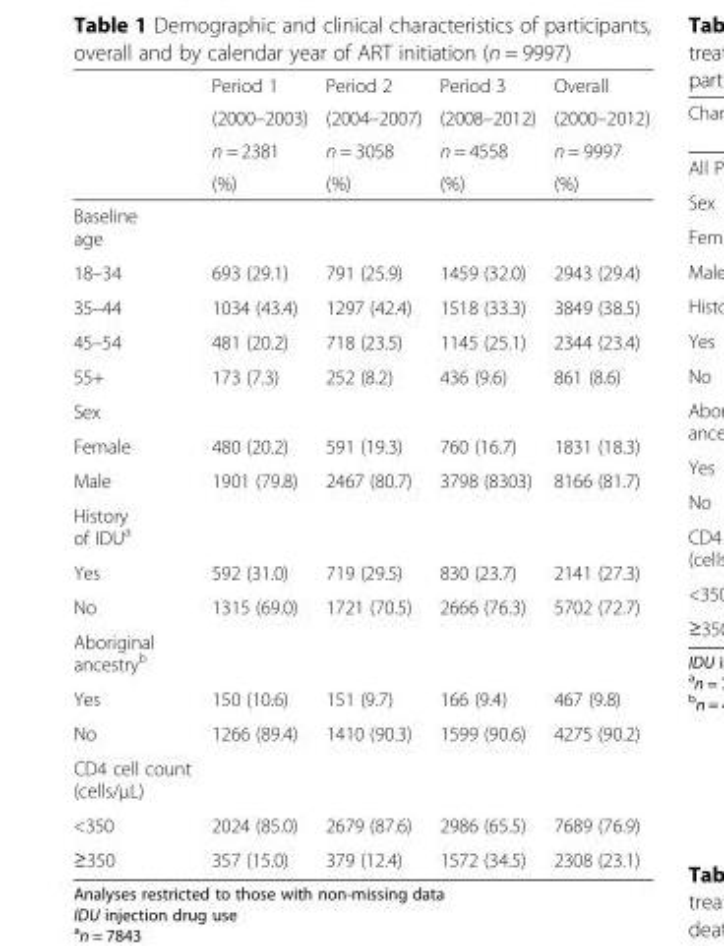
<table><thead><tr><td rowspan="4"></td><td rowspan="4">Period 1 (2000–2003) n = 2381 (%)</td><td rowspan="4">Period 2 (2004–2007) n = 3058 (%)</td><td rowspan="4">Period 3 (2008–2012) n = 4558 (%)</td><td rowspan="4">Overall (2000–2012) n = 9997 (%)</td></tr><tr></tr><tr></tr><tr></tr></thead><tbody><tr><td colspan="5">Baseline age</td></tr><tr><td>18–34</td><td>693 (29.1)</td><td>791 (25.9)</td><td>1459 (32.0)</td><td>2943 (29.4)</td></tr><tr><td>35–44</td><td>1034 (43.4)</td><td>1297 (42.4)</td><td>1518 (33.3)</td><td>3849 (38.5)</td></tr><tr><td>45–54</td><td>481 (20.2)</td><td>718 (23.5)</td><td>1145 (25.1)</td><td>2344 (23.4)</td></tr><tr><td>55+</td><td>173 (7.3)</td><td>252 (8.2)</td><td>436 (9.6)</td><td>861 (8.6)</td></tr><tr><td colspan="5">Sex</td></tr><tr><td>Female</td><td>480 (20.2)</td><td>591 (19.3)</td><td>760 (16.7)</td><td>1831 (18.3)</td></tr><tr><td>Male</td><td>1901 (79.8)</td><td>2467 (80.7)</td><td>3798 (8303)</td><td>8166 (81.7)</td></tr><tr><td colspan="5">History of IDU<sup>a</sup></td></tr><tr><td>Yes</td><td>592 (31.0)</td><td>719 (29.5)</td><td>830 (23.7)</td><td>2141 (27.3)</td></tr><tr><td>No</td><td>1315 (69.0)</td><td>1721 (70.5)</td><td>2666 (76.3)</td><td>5702 (72.7)</td></tr><tr><td colspan="5">Aboriginal ancestry<sup>b</sup></td></tr><tr><td>Yes</td><td>150 (10.6)</td><td>151 (9.7)</td><td>166 (9.4)</td><td>467 (9.8)</td></tr><tr><td>No</td><td>1266 (89.4)</td><td>1410 (90.3)</td><td>1599 (90.6)</td><td>4275 (90.2)</td></tr><tr><td colspan="5">CD4 cell count (cells/μL)</td></tr><tr><td>&lt;350</td><td>2024 (85.0)</td><td>2679 (87.6)</td><td>2986 (65.5)</td><td>7689 (76.9)</td></tr><tr><td>≥350</td><td>357 (15.0)</td><td>379 (12.4)</td><td>1572 (34.5)</td><td>2308 (23.1)</td></tr></tbody></table>